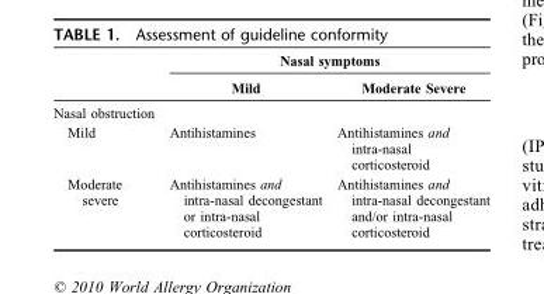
<table><thead><tr><td rowspan="2"></td><td colspan="2">Nasal symptoms</td></tr><tr><td>Mild</td><td>Moderate Severe</td></tr></thead><tbody><tr><td>Nasal obstruction Mild</td><td>Antihistamines</td><td>Antihistamines and intra-nasal corticosteroid</td></tr><tr><td>Moderate severe</td><td>Antihistamines and intra-nasal decongestant or intra-nasal corticosteroid</td><td>Antihistamines and intra-nasal decongestant and/or intra-nasal corticosteroid</td></tr></tbody></table>